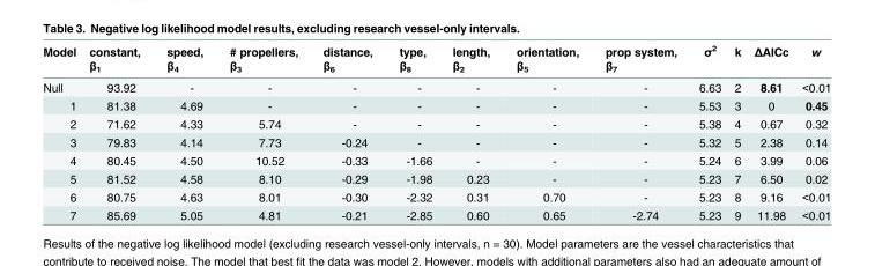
<table><thead><tr><td>Model</td><td>constant, β<sub>1</sub></td><td>speed, β<sub>4</sub></td><td># propellers, β<sub>3</sub></td><td>distance, β<sub>6</sub></td><td>type, β<sub>8</sub></td><td>length, β<sub>2</sub></td><td>orientation, β<sub>5</sub></td><td>prop system, β<sub>7</sub></td><td>σ<sup>2</sup></td><td>k</td><td>ΔAICc</td><td>w</td></tr></thead><tbody><tr><td>Null</td><td>93.92</td><td>-</td><td>-</td><td>-</td><td>-</td><td>-</td><td>-</td><td>-</td><td>6.63</td><td>2</td><td>8.61</td><td>&lt;0.01</td></tr><tr><td>1</td><td>81.38</td><td>4.69</td><td>-</td><td>-</td><td>-</td><td>-</td><td>-</td><td>-</td><td>5.53</td><td>3</td><td>0</td><td>0.45</td></tr><tr><td>2</td><td>71.62</td><td>4.33</td><td>5.74</td><td>-</td><td>-</td><td>-</td><td>-</td><td>-</td><td>5.38</td><td>4</td><td>0.67</td><td>0.32</td></tr><tr><td>3</td><td>79.83</td><td>4.14</td><td>7.73</td><td>-0.24</td><td>-</td><td>-</td><td>-</td><td>-</td><td>5.32</td><td>5</td><td>2.38</td><td>0.14</td></tr><tr><td>4</td><td>80.45</td><td>4.50</td><td>10.52</td><td>-0.33</td><td>-1.66</td><td>-</td><td>-</td><td>-</td><td>5.24</td><td>6</td><td>3.99</td><td>0.06</td></tr><tr><td>5</td><td>81.52</td><td>4.58</td><td>8.10</td><td>-0.29</td><td>-1.98</td><td>0.23</td><td>-</td><td>-</td><td>5.23</td><td>7</td><td>6.50</td><td>0.02</td></tr><tr><td>6</td><td>80.75</td><td>4.63</td><td>8.01</td><td>-0.30</td><td>-2.32</td><td>0.31</td><td>0.70</td><td>-</td><td>5.23</td><td>8</td><td>9.16</td><td>&lt;0.01</td></tr><tr><td>7</td><td>85.69</td><td>5.05</td><td>4.81</td><td>-0.21</td><td>-2.85</td><td>0.60</td><td>0.65</td><td>-2.74</td><td>5.23</td><td>9</td><td>11.98</td><td>&lt;0.01</td></tr></tbody></table>